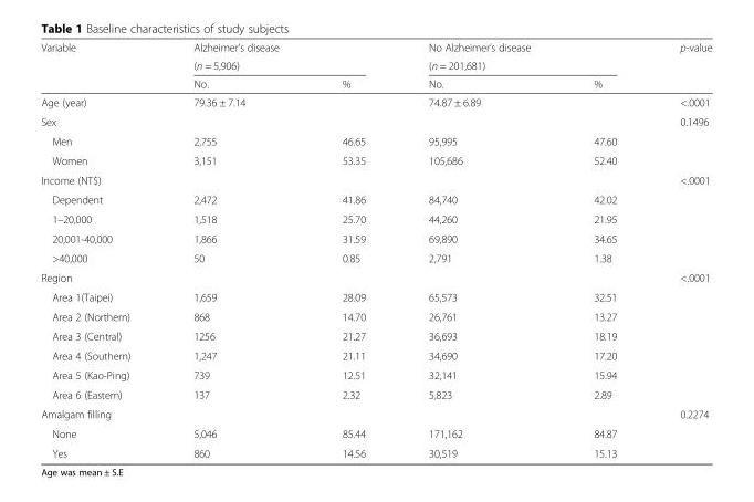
<table><thead><tr><td rowspan="3">Variable</td><td>Alzheimer’s disease</td><td></td><td>No Alzheimer’s disease</td><td></td><td rowspan="3">p-value</td></tr><tr><td colspan="2">(n = 5,906)</td><td colspan="2">(n = 201,681)</td></tr><tr><td>No.</td><td>%</td><td>No.</td><td>%</td></tr></thead><tbody><tr><td>Age (year)</td><td colspan="2">79.36 ± 7.14</td><td colspan="2">74.87 ± 6.89</td><td>&lt;.0001</td></tr><tr><td>Sex</td><td></td><td></td><td></td><td></td><td>0.1496</td></tr><tr><td>Men</td><td>2,755</td><td>46.65</td><td>95,995</td><td>47.60</td><td></td></tr><tr><td>Women</td><td>3,151</td><td>53.35</td><td>105,686</td><td>52.40</td><td></td></tr><tr><td>Income (NT$)</td><td></td><td></td><td></td><td></td><td>&lt;.0001</td></tr><tr><td>Dependent</td><td>2,472</td><td>41.86</td><td>84,740</td><td>42.02</td><td></td></tr><tr><td>1–20,000</td><td>1,518</td><td>25.70</td><td>44,260</td><td>21.95</td><td></td></tr><tr><td>20,001-40,000</td><td>1,866</td><td>31.59</td><td>69,890</td><td>34.65</td><td></td></tr><tr><td>&gt;40,000</td><td>50</td><td>0.85</td><td>2,791</td><td>1.38</td><td></td></tr><tr><td>Region</td><td></td><td></td><td></td><td></td><td>&lt;.0001</td></tr><tr><td>Area 1(Taipei)</td><td>1,659</td><td>28.09</td><td>65,573</td><td>32.51</td><td></td></tr><tr><td>Area 2 (Northern)</td><td>868</td><td>14.70</td><td>26,761</td><td>13.27</td><td></td></tr><tr><td>Area 3 (Central)</td><td>1256</td><td>21.27</td><td>36,693</td><td>18.19</td><td></td></tr><tr><td>Area 4 (Southern)</td><td>1,247</td><td>21.11</td><td>34,690</td><td>17.20</td><td></td></tr><tr><td>Area 5 (Kao-Ping)</td><td>739</td><td>12.51</td><td>32,141</td><td>15.94</td><td></td></tr><tr><td>Area 6 (Eastern)</td><td>137</td><td>2.32</td><td>5,823</td><td>2.89</td><td></td></tr><tr><td>Amalgam filling</td><td></td><td></td><td></td><td></td><td>0.2274</td></tr><tr><td>None</td><td>5,046</td><td>85.44</td><td>171,162</td><td>84.87</td><td></td></tr><tr><td>Yes</td><td>860</td><td>14.56</td><td>30,519</td><td>15.13</td><td></td></tr></tbody></table>